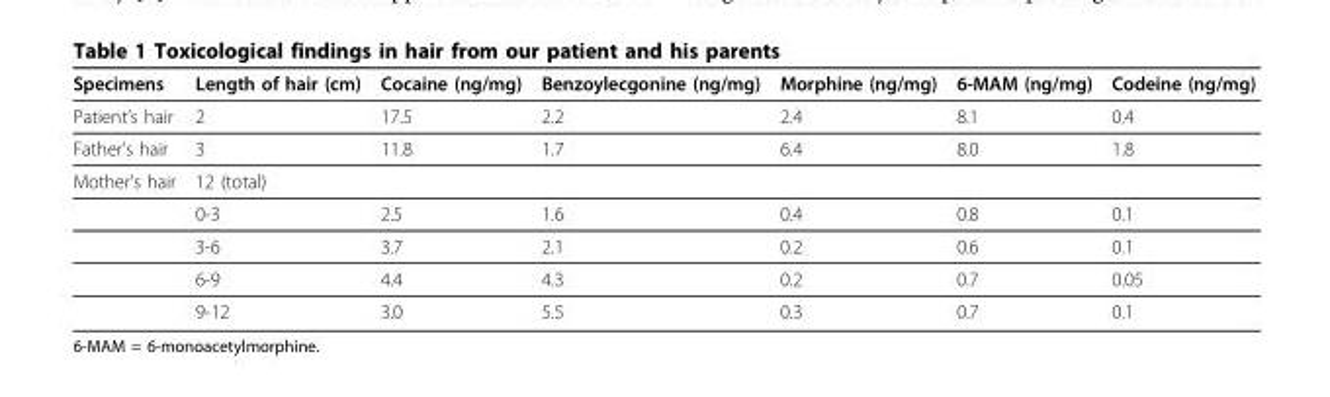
<table><thead><tr><td>Specimens</td><td>Length of hair (cm)</td><td>Cocaine (ng/mg)</td><td>Benzoylecgonine (ng/mg)</td><td>Morphine (ng/mg)</td><td>6-MAM (ng/mg)</td><td>Codeine (ng/mg)</td></tr></thead><tbody><tr><td>Patient’s hair</td><td>2</td><td>17.5</td><td>2.2</td><td>2.4</td><td>8.1</td><td>0.4</td></tr><tr><td>Father’s hair</td><td>3</td><td>11.8</td><td>1.7</td><td>6.4</td><td>8.0</td><td>1.8</td></tr><tr><td rowspan="5">Mother’s hair</td><td>12 (total)</td><td></td><td></td><td></td><td></td><td></td></tr><tr><td>0-3</td><td>2.5</td><td>1.6</td><td>0.4</td><td>0.8</td><td>0.1</td></tr><tr><td>3-6</td><td>3.7</td><td>2.1</td><td>0.2</td><td>0.6</td><td>0.1</td></tr><tr><td>6-9</td><td>4.4</td><td>4.3</td><td>0.2</td><td>0.7</td><td>0.05</td></tr><tr><td>9-12</td><td>3.0</td><td>5.5</td><td>0.3</td><td>0.7</td><td>0.1</td></tr></tbody></table>